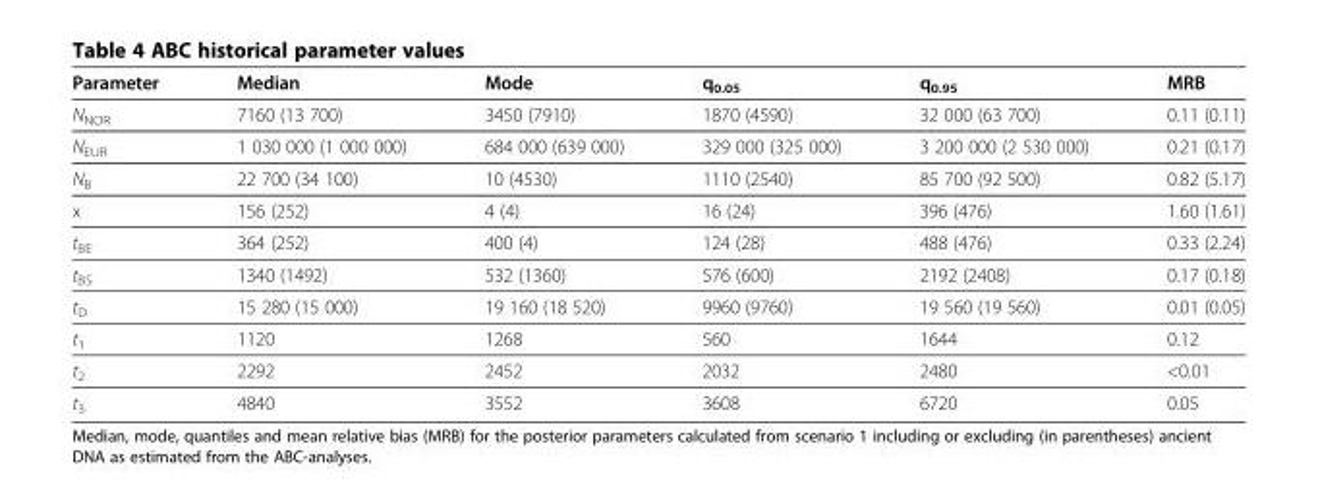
<table><thead><tr><td>Parameter</td><td>Median</td><td>Mode</td><td>q<sub>0.05</sub></td><td>q<sub>0.95</sub></td><td>MRB</td></tr></thead><tbody><tr><td>N<sub>NOR</sub></td><td>7160 (13 700)</td><td>3450 (7910)</td><td>1870 (4590)</td><td>32 000 (63 700)</td><td>0.11 (0.11)</td></tr><tr><td>N<sub>EUR</sub></td><td>1 030 000 (1 000 000)</td><td>684 000 (639 000)</td><td>329 000 (325 000)</td><td>3 200 000 (2 530 000)</td><td>0.21 (0.17)</td></tr><tr><td>N<sub>B</sub></td><td>22 700 (34 100)</td><td>10 (4530)</td><td>1110 (2540)</td><td>85 700 (92 500)</td><td>0.82 (5.17)</td></tr><tr><td>x</td><td>156 (252)</td><td>4 (4)</td><td>16 (24)</td><td>396 (476)</td><td>1.60 (1.61)</td></tr><tr><td>t<sub>BE</sub></td><td>364 (252)</td><td>400 (4)</td><td>124 (28)</td><td>488 (476)</td><td>0.33 (2.24)</td></tr><tr><td>t<sub>BS</sub></td><td>1340 (1492)</td><td>532 (1360)</td><td>576 (600)</td><td>2192 (2408)</td><td>0.17 (0.18)</td></tr><tr><td>t<sub>D</sub></td><td>15 280 (15 000)</td><td>19 160 (18 520)</td><td>9960 (9760)</td><td>19 560 (19 560)</td><td>0.01 (0.05)</td></tr><tr><td>t<sub>1</sub></td><td>1120</td><td>1268</td><td>560</td><td>1644</td><td>0.12</td></tr><tr><td>t<sub>2</sub></td><td>2292</td><td>2452</td><td>2032</td><td>2480</td><td>&lt;0.01</td></tr><tr><td>t<sub>3</sub></td><td>4840</td><td>3552</td><td>3608</td><td>6720</td><td>0.05</td></tr></tbody></table>